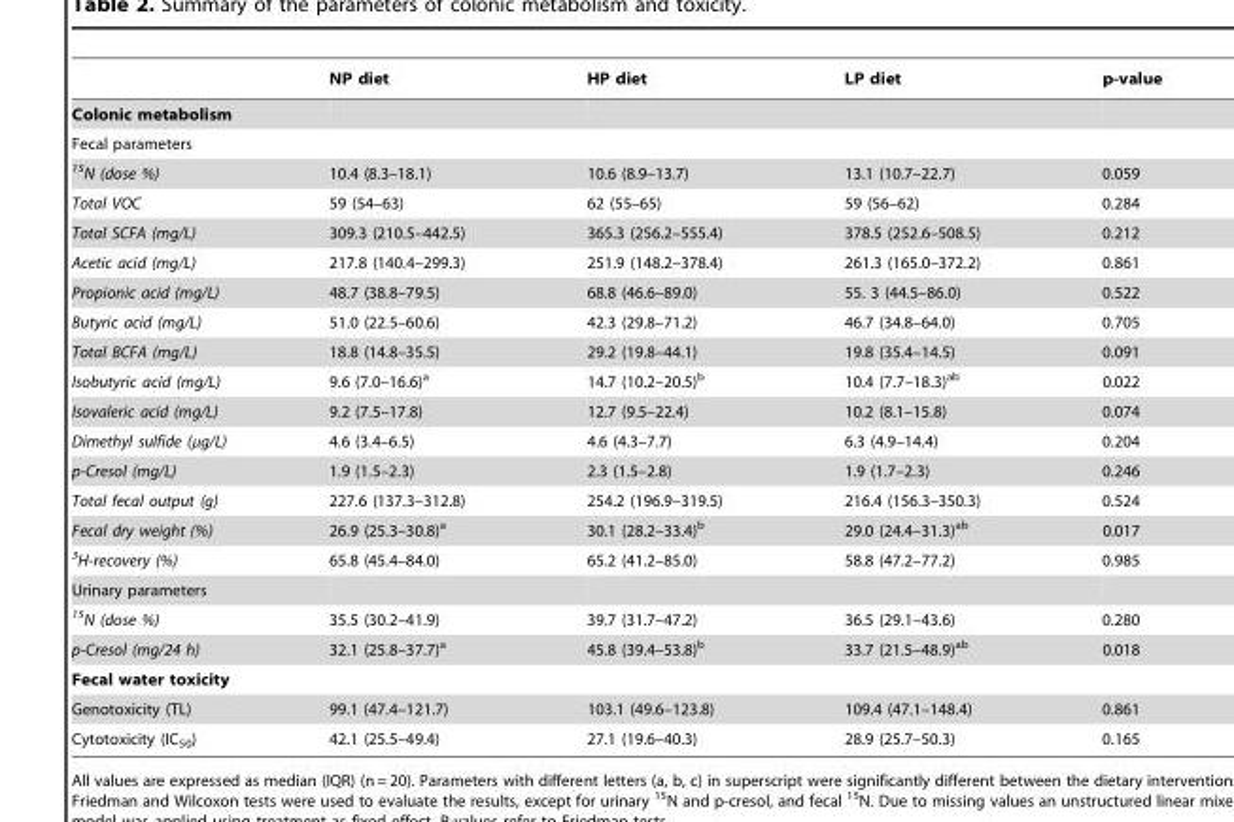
<table><thead><tr><td></td><td>NP diet</td><td>HP diet</td><td>LP diet</td><td>p-value</td></tr></thead><tbody><tr><td colspan="5">Colonic metabolism</td></tr><tr><td colspan="5">Fecal parameters</td></tr><tr><td><sup>15</sup>N (dose %)</td><td>10.4 (8.3–18.1)</td><td>10.6 (8.9–13.7)</td><td>13.1 (10.7–22.7)</td><td>0.059</td></tr><tr><td>Total VOC</td><td>59 (54–63)</td><td>62 (55–65)</td><td>59 (56–62)</td><td>0.284</td></tr><tr><td>Total SCFA (mg/L)</td><td>309.3 (210.5–442.5)</td><td>365.3 (256.2–555.4)</td><td>378.5 (252.6–508.5)</td><td>0.212</td></tr><tr><td>Acetic acid (mg/L)</td><td>217.8 (140.4–299.3)</td><td>251.9 (148.2–378.4)</td><td>261.3 (165.0–372.2)</td><td>0.861</td></tr><tr><td>Propionic acid (mg/L)</td><td>48.7 (38.8–79.5)</td><td>68.8 (46.6–89.0)</td><td>55. 3 (44.5–86.0)</td><td>0.522</td></tr><tr><td>Butyric acid (mg/L)</td><td>51.0 (22.5–60.6)</td><td>42.3 (29.8–71.2)</td><td>46.7 (34.8–64.0)</td><td>0.705</td></tr><tr><td>Total BCFA (mg/L)</td><td>18.8 (14.8–35.5)</td><td>29.2 (19.8–44.1)</td><td>19.8 (35.4–14.5)</td><td>0.091</td></tr><tr><td>Isobutyric acid (mg/L)</td><td>9.6 (7.0–16.6)<sup>a</sup></td><td>14.7 (10.2–20.5)<sup>b</sup></td><td>10.4 (7.7–18.3)<sup>ab</sup></td><td>0.022</td></tr><tr><td>Isovaleric acid (mg/L)</td><td>9.2 (7.5–17.8)</td><td>12.7 (9.5–22.4)</td><td>10.2 (8.1–15.8)</td><td>0.074</td></tr><tr><td>Dimethyl sulfide (µg/L)</td><td>4.6 (3.4–6.5)</td><td>4.6 (4.3–7.7)</td><td>6.3 (4.9–14.4)</td><td>0.204</td></tr><tr><td>p-Cresol (mg/L)</td><td>1.9 (1.5–2.3)</td><td>2.3 (1.5–2.8)</td><td>1.9 (1.7–2.3)</td><td>0.246</td></tr><tr><td>Total fecal output (g)</td><td>227.6 (137.3–312.8)</td><td>254.2 (196.9–319.5)</td><td>216.4 (156.3–350.3)</td><td>0.524</td></tr><tr><td>Fecal dry weight (%)</td><td>26.9 (25.3–30.8)<sup>a</sup></td><td>30.1 (28.2–33.4)<sup>b</sup></td><td>29.0 (24.4–31.3)<sup>ab</sup></td><td>0.017</td></tr><tr><td><sup>3</sup>H-recovery (%)</td><td>65.8 (45.4–84.0)</td><td>65.2 (41.2–85.0)</td><td>58.8 (47.2–77.2)</td><td>0.985</td></tr><tr><td colspan="5">Urinary parameters</td></tr><tr><td><sup>15</sup>N (dose %)</td><td>35.5 (30.2–41.9)</td><td>39.7 (31.7–47.2)</td><td>36.5 (29.1–43.6)</td><td>0.280</td></tr><tr><td>p-Cresol (mg/24 h)</td><td>32.1 (25.8–37.7)<sup>a</sup></td><td>45.8 (39.4–53.8)<sup>b</sup></td><td>33.7 (21.5–48.9)<sup>ab</sup></td><td>0.018</td></tr><tr><td colspan="5">Fecal water toxicity</td></tr><tr><td>Genotoxicity (TL)</td><td>99.1 (47.4–121.7)</td><td>103.1 (49.6–123.8)</td><td>109.4 (47.1–148.4)</td><td>0.861</td></tr><tr><td>Cytotoxicity (IC<sub>50</sub>)</td><td>42.1 (25.5–49.4)</td><td>27.1 (19.6–40.3)</td><td>28.9 (25.7–50.3)</td><td>0.165</td></tr></tbody></table>